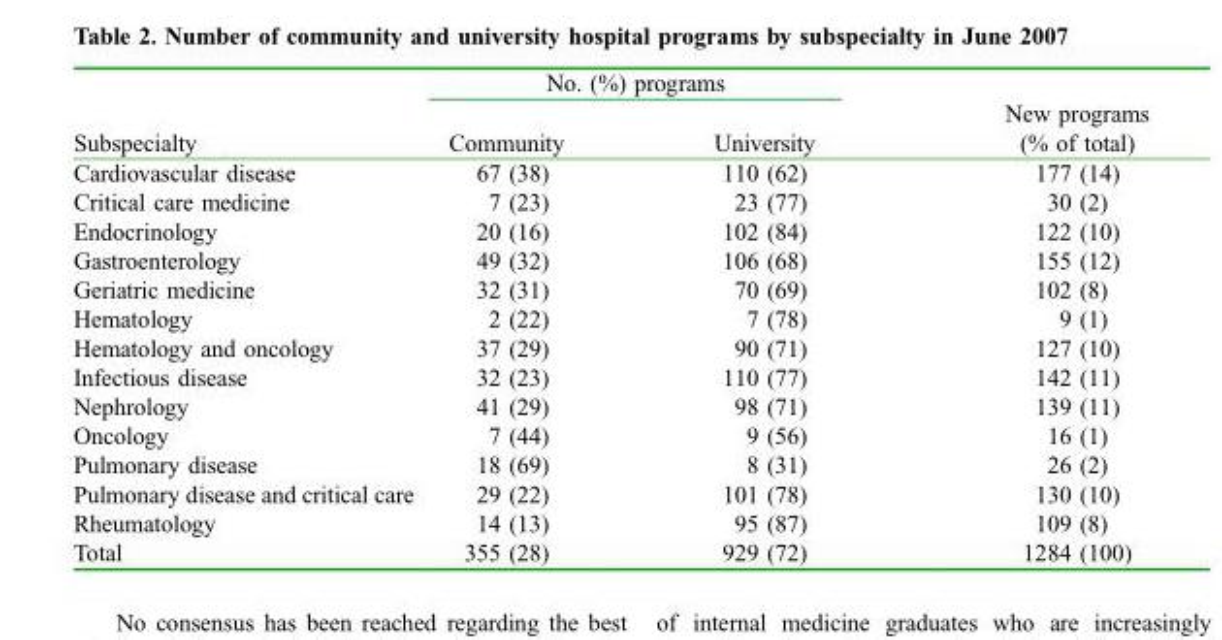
<table><thead><tr><td rowspan="2">Subspecialty</td><td colspan="2">No. (%) programs</td><td rowspan="2">New programs (% of total)</td></tr><tr><td>Community</td><td>University</td></tr></thead><tbody><tr><td>Cardiovascular disease</td><td>67 (38)</td><td>110 (62)</td><td>177 (14)</td></tr><tr><td>Critical care medicine</td><td>7 (23)</td><td>23 (77)</td><td>30 (2)</td></tr><tr><td>Endocrinology</td><td>20 (16)</td><td>102 (84)</td><td>122 (10)</td></tr><tr><td>Gastroenterology</td><td>49 (32)</td><td>106 (68)</td><td>155 (12)</td></tr><tr><td>Geriatric medicine</td><td>32 (31)</td><td>70 (69)</td><td>102 (8)</td></tr><tr><td>Hematology</td><td>2 (22)</td><td>7 (78)</td><td>9 (1)</td></tr><tr><td>Hematology and oncology</td><td>37 (29)</td><td>90 (71)</td><td>127 (10)</td></tr><tr><td>Infectious disease</td><td>32 (23)</td><td>110 (77)</td><td>142 (11)</td></tr><tr><td>Nephrology</td><td>41 (29)</td><td>98 (71)</td><td>139 (11)</td></tr><tr><td>Oncology</td><td>7 (44)</td><td>9 (56)</td><td>16 (1)</td></tr><tr><td>Pulmonary disease</td><td>18 (69)</td><td>8 (31)</td><td>26 (2)</td></tr><tr><td>Pulmonary disease and critical care</td><td>29 (22)</td><td>101 (78)</td><td>130 (10)</td></tr><tr><td>Rheumatology</td><td>14 (13)</td><td>95 (87)</td><td>109 (8)</td></tr><tr><td>Total</td><td>355 (28)</td><td>929 (72)</td><td>1284 (100)</td></tr></tbody></table>